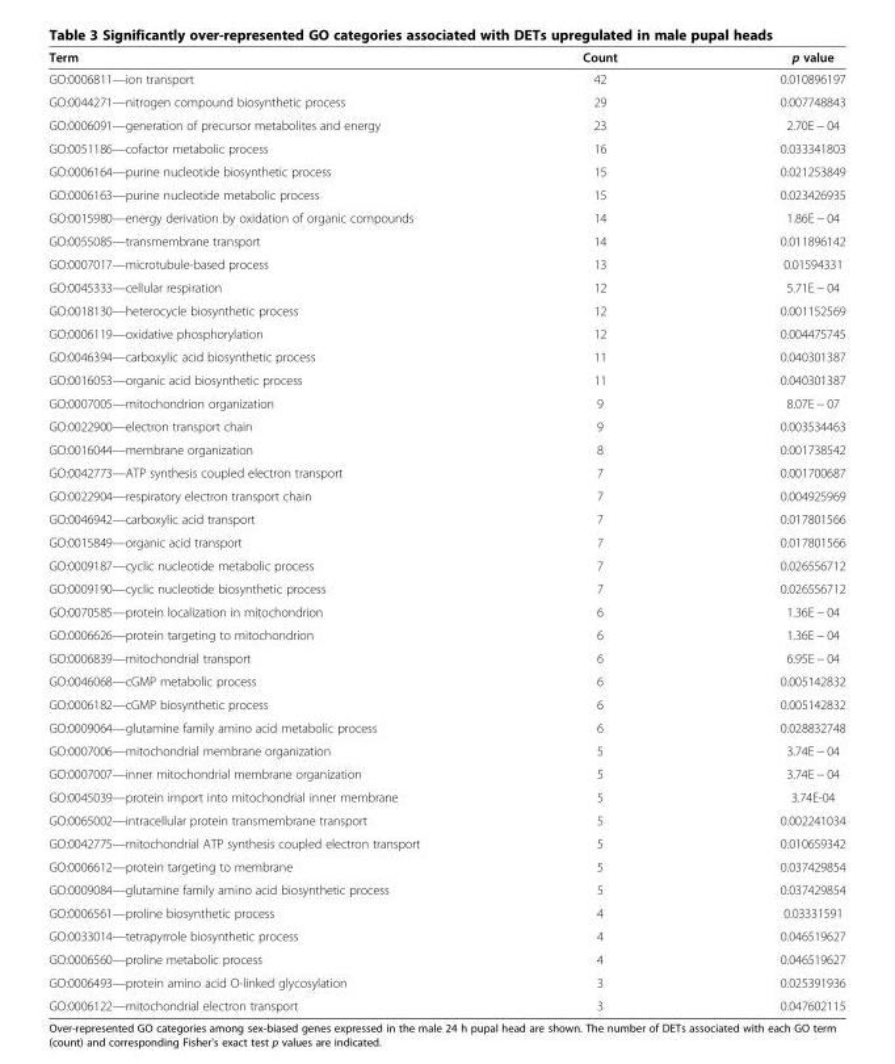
<table><thead><tr><td>Term</td><td>Count</td><td>p value</td></tr></thead><tbody><tr><td>GO:0006811—ion transport</td><td>42</td><td>0.010896197</td></tr><tr><td>GO:0044271—nitrogen compound biosynthetic process</td><td>29</td><td>0.007748843</td></tr><tr><td>GO:0006091—generation of precursor metabolites and energy</td><td>23</td><td>2.70E − 04</td></tr><tr><td>GO:0051186—cofactor metabolic process</td><td>16</td><td>0.033341803</td></tr><tr><td>GO:0006164—purine nucleotide biosynthetic process</td><td>15</td><td>0.021253849</td></tr><tr><td>GO:0006163—purine nucleotide metabolic process</td><td>15</td><td>0.023426935</td></tr><tr><td>GO:0015980—energy derivation by oxidation of organic compounds</td><td>14</td><td>1.86E − 04</td></tr><tr><td>GO:0055085—transmembrane transport</td><td>14</td><td>0.011896142</td></tr><tr><td>GO:0007017—microtubule-based process</td><td>13</td><td>0.01594331</td></tr><tr><td>GO:0045333—cellular respiration</td><td>12</td><td>5.71E − 04</td></tr><tr><td>GO:0018130—heterocycle biosynthetic process</td><td>12</td><td>0.001152569</td></tr><tr><td>GO:0006119—oxidative phosphorylation</td><td>12</td><td>0.004475745</td></tr><tr><td>GO:0046394—carboxylic acid biosynthetic process</td><td>11</td><td>0.040301387</td></tr><tr><td>GO:0016053—organic acid biosynthetic process</td><td>11</td><td>0.040301387</td></tr><tr><td>GO:0007005—mitochondrion organization</td><td>9</td><td>8.07E − 07</td></tr><tr><td>GO:0022900—electron transport chain</td><td>9</td><td>0.003534463</td></tr><tr><td>GO:0016044—membrane organization</td><td>8</td><td>0.001738542</td></tr><tr><td>GO:0042773—ATP synthesis coupled electron transport</td><td>7</td><td>0.001700687</td></tr><tr><td>GO:0022904—respiratory electron transport chain</td><td>7</td><td>0.004925969</td></tr><tr><td>GO:0046942—carboxylic acid transport</td><td>7</td><td>0.017801566</td></tr><tr><td>GO:0015849—organic acid transport</td><td>7</td><td>0.017801566</td></tr><tr><td>GO:0009187—cyclic nucleotide metabolic process</td><td>7</td><td>0.026556712</td></tr><tr><td>GO:0009190—cyclic nucleotide biosynthetic process</td><td>7</td><td>0.026556712</td></tr><tr><td>GO:0070585—protein localization in mitochondrion</td><td>6</td><td>1.36E − 04</td></tr><tr><td>GO:0006626—protein targeting to mitochondrion</td><td>6</td><td>1.36E − 04</td></tr><tr><td>GO:0006839—mitochondrial transport</td><td>6</td><td>6.95E − 04</td></tr><tr><td>GO:0046068—cGMP metabolic process</td><td>6</td><td>0.005142832</td></tr><tr><td>GO:0006182—cGMP biosynthetic process</td><td>6</td><td>0.005142832</td></tr><tr><td>GO:0009064—glutamine family amino acid metabolic process</td><td>6</td><td>0.028832748</td></tr><tr><td>GO:0007006—mitochondrial membrane organization</td><td>5</td><td>3.74E − 04</td></tr><tr><td>GO:0007007—inner mitochondrial membrane organization</td><td>5</td><td>3.74E − 04</td></tr><tr><td>GO:0045039—protein import into mitochondrial inner membrane</td><td>5</td><td>3.74E-04</td></tr><tr><td>GO:0065002—intracellular protein transmembrane transport</td><td>5</td><td>0.002241034</td></tr><tr><td>GO:0042775—mitochondrial ATP synthesis coupled electron transport</td><td>5</td><td>0.010659342</td></tr><tr><td>GO:0006612—protein targeting to membrane</td><td>5</td><td>0.037429854</td></tr><tr><td>GO:0009084—glutamine family amino acid biosynthetic process</td><td>5</td><td>0.037429854</td></tr><tr><td>GO:0006561—proline biosynthetic process</td><td>4</td><td>0.03331591</td></tr><tr><td>GO:0033014—tetrapyrrole biosynthetic process</td><td>4</td><td>0.046519627</td></tr><tr><td>GO:0006560—proline metabolic process</td><td>4</td><td>0.046519627</td></tr><tr><td>GO:0006493—protein amino acid O-linked glycosylation</td><td>3</td><td>0.025391936</td></tr><tr><td>GO:0006122—mitochondrial electron transport</td><td>3</td><td>0.047602115</td></tr></tbody></table>